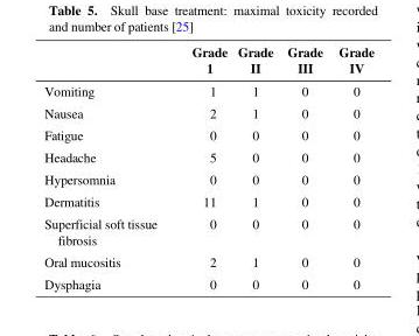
<table><thead><tr><td></td><td>Grade 1</td><td>Grade II</td><td>Grade III</td><td>Grade IV</td></tr></thead><tbody><tr><td>Vomiting</td><td>1</td><td>1</td><td>0</td><td>0</td></tr><tr><td>Nausea</td><td>2</td><td>1</td><td>0</td><td>0</td></tr><tr><td>Fatigue</td><td>0</td><td>0</td><td>0</td><td>0</td></tr><tr><td>Headache</td><td>5</td><td>0</td><td>0</td><td>0</td></tr><tr><td>Hypersomnia</td><td>0</td><td>0</td><td>0</td><td>0</td></tr><tr><td>Dermatitis</td><td>11</td><td>1</td><td>0</td><td>0</td></tr><tr><td>Superficial soft tissue fibrosis</td><td>0</td><td>0</td><td>0</td><td>0</td></tr><tr><td>Oral mucositis</td><td>2</td><td>1</td><td>0</td><td>0</td></tr><tr><td>Dysphagia</td><td>0</td><td>0</td><td>0</td><td>0</td></tr></tbody></table>